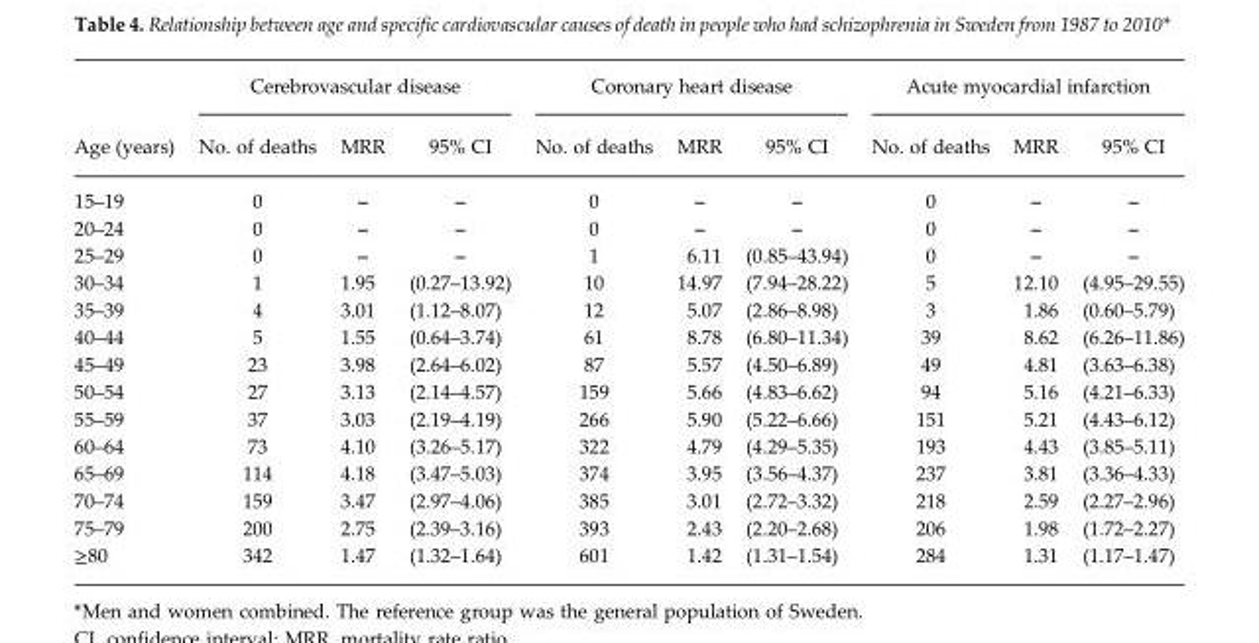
<table><thead><tr><td rowspan="2">Age (years)</td><td colspan="3">Cerebrovascular disease</td><td colspan="3">Coronary heart disease</td><td colspan="3">Acute myocardial infarction</td></tr><tr><td>No. of deaths</td><td>MRR</td><td>95% CI</td><td>No. of deaths</td><td>MRR</td><td>95% CI</td><td>No. of deaths</td><td>MRR</td><td>95% CI</td></tr></thead><tbody><tr><td>15–19</td><td>0</td><td>–</td><td>–</td><td>0</td><td>–</td><td>–</td><td>0</td><td>–</td><td>–</td></tr><tr><td>20–24</td><td>0</td><td>–</td><td>–</td><td>0</td><td>–</td><td>–</td><td>0</td><td>–</td><td>–</td></tr><tr><td>25–29</td><td>0</td><td>–</td><td>–</td><td>1</td><td>6.11</td><td>(0.85–43.94)</td><td>0</td><td>–</td><td>–</td></tr><tr><td>30–34</td><td>1</td><td>1.95</td><td>(0.27–13.92)</td><td>10</td><td>14.97</td><td>(7.94–28.22)</td><td>5</td><td>12.10</td><td>(4.95–29.55)</td></tr><tr><td>35–39</td><td>4</td><td>3.01</td><td>(1.12–8.07)</td><td>12</td><td>5.07</td><td>(2.86–8.98)</td><td>3</td><td>1.86</td><td>(0.60–5.79)</td></tr><tr><td>40–44</td><td>5</td><td>1.55</td><td>(0.64–3.74)</td><td>61</td><td>8.78</td><td>(6.80–11.34)</td><td>39</td><td>8.62</td><td>(6.26–11.86)</td></tr><tr><td>45–49</td><td>23</td><td>3.98</td><td>(2.64–6.02)</td><td>87</td><td>5.57</td><td>(4.50–6.89)</td><td>49</td><td>4.81</td><td>(3.63–6.38)</td></tr><tr><td>50–54</td><td>27</td><td>3.13</td><td>(2.14–4.57)</td><td>159</td><td>5.66</td><td>(4.83–6.62)</td><td>94</td><td>5.16</td><td>(4.21–6.33)</td></tr><tr><td>55–59</td><td>37</td><td>3.03</td><td>(2.19–4.19)</td><td>266</td><td>5.90</td><td>(5.22–6.66)</td><td>151</td><td>5.21</td><td>(4.43–6.12)</td></tr><tr><td>60–64</td><td>73</td><td>4.10</td><td>(3.26–5.17)</td><td>322</td><td>4.79</td><td>(4.29–5.35)</td><td>193</td><td>4.43</td><td>(3.85–5.11)</td></tr><tr><td>65–69</td><td>114</td><td>4.18</td><td>(3.47–5.03)</td><td>374</td><td>3.95</td><td>(3.56–4.37)</td><td>237</td><td>3.81</td><td>(3.36–4.33)</td></tr><tr><td>70–74</td><td>159</td><td>3.47</td><td>(2.97–4.06)</td><td>385</td><td>3.01</td><td>(2.72–3.32)</td><td>218</td><td>2.59</td><td>(2.27–2.96)</td></tr><tr><td>75–79</td><td>200</td><td>2.75</td><td>(2.39–3.16)</td><td>393</td><td>2.43</td><td>(2.20–2.68)</td><td>206</td><td>1.98</td><td>(1.72–2.27)</td></tr><tr><td>≥80</td><td>342</td><td>1.47</td><td>(1.32–1.64)</td><td>601</td><td>1.42</td><td>(1.31–1.54)</td><td>284</td><td>1.31</td><td>(1.17–1.47)</td></tr></tbody></table>